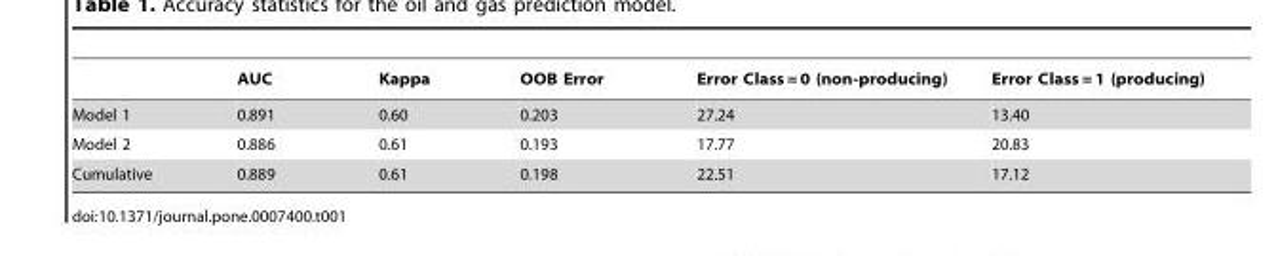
<table><thead><tr><td></td><td>AUC</td><td>Kappa</td><td>OOB Error</td><td>Error Class = 0 (non-producing)</td><td>Error Class = 1 (producing)</td></tr></thead><tbody><tr><td>Model 1</td><td>0.891</td><td>0.60</td><td>0.203</td><td>27.24</td><td>13.40</td></tr><tr><td>Model 2</td><td>0.886</td><td>0.61</td><td>0.193</td><td>17.77</td><td>20.83</td></tr><tr><td>Cumulative</td><td>0.889</td><td>0.61</td><td>0.198</td><td>22.51</td><td>17.12</td></tr></tbody></table>